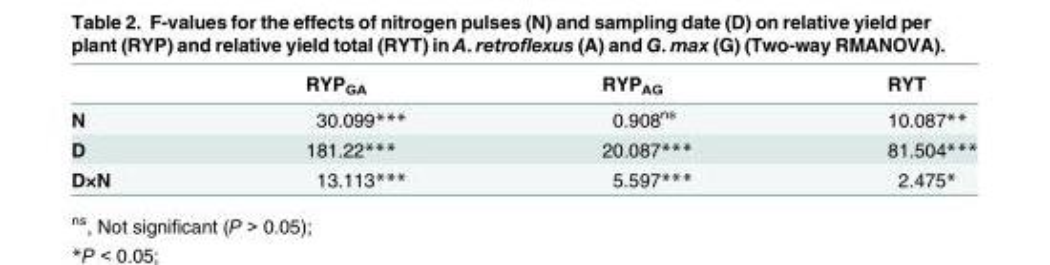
<table><thead><tr><td></td><td>RYP<sub>GA</sub></td><td>RYP<sub>AG</sub></td><td>RYT</td></tr></thead><tbody><tr><td>N</td><td>30.099***</td><td>0.908<sup>ns</sup></td><td>10.087**</td></tr><tr><td>D</td><td>181.22***</td><td>20.087***</td><td>81.504***</td></tr><tr><td>D×N</td><td>13.113***</td><td>5.597***</td><td>2.475*</td></tr></tbody></table>